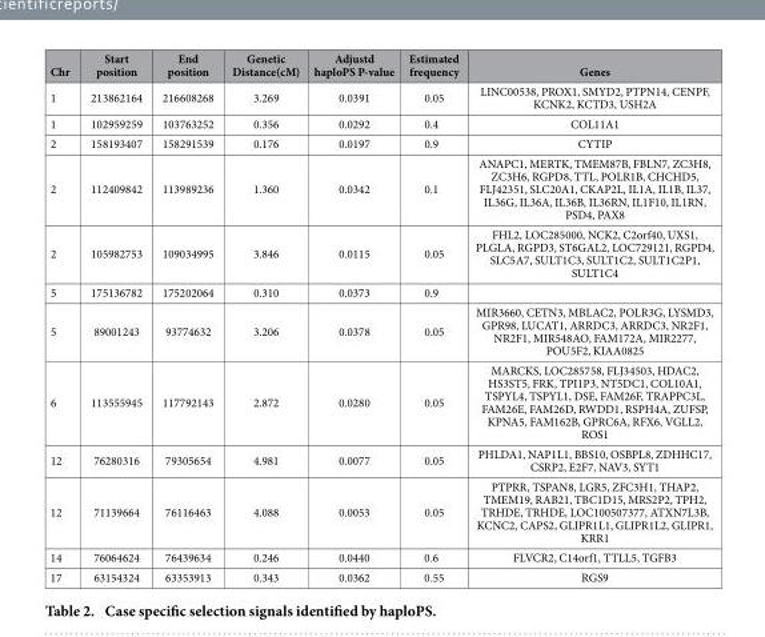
<table><thead><tr><td>Chr</td><td>Start position</td><td>End position</td><td>Genetic Distance(cM)</td><td>Adjustd haploPS P-value</td><td>Estimated frequency</td><td>Genes</td></tr></thead><tbody><tr><td>1</td><td>213862164</td><td>216608268</td><td>3.269</td><td>0.0391</td><td>0.05</td><td>LINC00538, PROX1, SMYD2, PTPN14, CENPF, KCNK2, KCTD3, USH2A</td></tr><tr><td>1</td><td>102959259</td><td>103763252</td><td>0.356</td><td>0.0292</td><td>0.4</td><td>COL11A1</td></tr><tr><td>2</td><td>158193407</td><td>158291539</td><td>0.176</td><td>0.0197</td><td>0.9</td><td>CYTIP</td></tr><tr><td>2</td><td>112409842</td><td>113989236</td><td>1.360</td><td>0.0342</td><td>0.1</td><td>ANAPC1, MERTK, TMEM87B, FBLN7, ZC3H8, ZC3H6, RGPD8, TTL, POLR1B, CHCHD5, FLJ42351, SLC20A1, CKAP2L, IL1A, IL1B, IL37, IL36G, IL36A, IL36B, IL36RN, IL1F10, IL1RN, PSD4, PAX8</td></tr><tr><td>2</td><td>105982753</td><td>109034995</td><td>3.846</td><td>0.0115</td><td>0.05</td><td>FHL2, LOC285000, NCK2, C2orf40, UXS1, PLGLA, RGPD3, ST6GAL2, LOC729121, RGPD4, SLC5A7, SULT1C3, SULT1C2, SULT1C2P1, SULT1C4</td></tr><tr><td>5</td><td>175136782</td><td>175202064</td><td>0.310</td><td>0.0373</td><td>0.9</td><td></td></tr><tr><td>5</td><td>89001243</td><td>93774632</td><td>3.206</td><td>0.0378</td><td>0.05</td><td>MIR3660, CETN3, MBLAC2, POLR3G, LYSMD3, GPR98, LUCAT1, ARRDC3, ARRDC3, NR2F1, NR2F1, MIR548AO, FAM172A, MIR2277, POU5F2, KIAA0825</td></tr><tr><td>6</td><td>113555945</td><td>117792143</td><td>2.872</td><td>0.0280</td><td>0.05</td><td>MARCKS, LOC285758, FLJ34503, HDAC2, HS3ST5, FRK, TPI1P3, NT5DC1, COL10A1, TSPYL4, TSPYL1, DSE, FAM26F, TRAPPC3L, FAM26E, FAM26D, RWDD1, RSPH4A, ZUFSP, KPNA5, FAM162B, GPRC6A, RFX6, VGLL2, ROS1</td></tr><tr><td>12</td><td>76280316</td><td>79305654</td><td>4.981</td><td>0.0077</td><td>0.05</td><td>PHLDA1, NAP1L1, BBS10, OSBPL8, ZDHHC17, CSRP2, E2F7, NAV3, SYT1</td></tr><tr><td>12</td><td>71139664</td><td>76116463</td><td>4.088</td><td>0.0053</td><td>0.05</td><td>PTPRR, TSPAN8, LGR5, ZFC3H1, THAP2, TMEM19, RAB21, TBC1D15, MRS2P2, TPH2, TRHDE, TRHDE, LOC100507377, ATXN7L3B, KCNC2, CAPS2, GLIPR1L1, GLIPR1L2, GLIPR1, KRR1</td></tr><tr><td>14</td><td>76064624</td><td>76439634</td><td>0.246</td><td>0.0440</td><td>0.6</td><td>FLVCR2, C14orf1, TTLL5, TGFB3</td></tr><tr><td>17</td><td>63154324</td><td>63353913</td><td>0.343</td><td>0.0362</td><td>0.55</td><td>RGS9</td></tr></tbody></table>